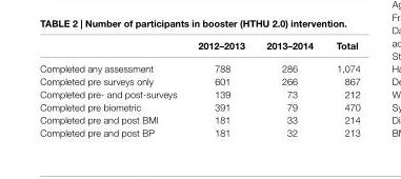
<table><thead><tr><td></td><td>2012–2013</td><td>2013–2014</td><td>Total</td></tr></thead><tbody><tr><td>Completed any assessment</td><td>788</td><td>286</td><td>1,074</td></tr><tr><td>Completed pre surveys only</td><td>601</td><td>266</td><td>867</td></tr><tr><td>Completed pre- and post-surveys</td><td>139</td><td>73</td><td>212</td></tr><tr><td>Completed pre biometric</td><td>391</td><td>79</td><td>470</td></tr><tr><td>Completed pre and post BMI</td><td>181</td><td>33</td><td>214</td></tr><tr><td>Completed pre and post BP</td><td>181</td><td>32</td><td>213</td></tr></tbody></table>